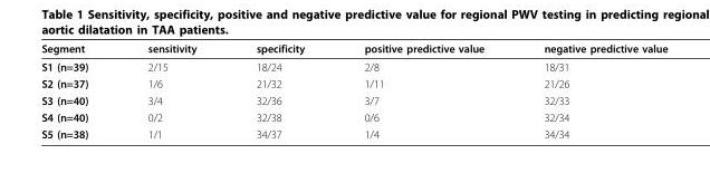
<table><thead><tr><td>Segment</td><td>sensitivity</td><td>specificity</td><td>positive predictive value</td><td>negative predictive value</td></tr></thead><tbody><tr><td>S1 (n=39)</td><td>2/15</td><td>18/24</td><td>2/8</td><td>18/31</td></tr><tr><td>S2 (n=37)</td><td>1/6</td><td>21/32</td><td>1/11</td><td>21/26</td></tr><tr><td>S3 (n=40)</td><td>3/4</td><td>32/36</td><td>3/7</td><td>32/33</td></tr><tr><td>S4 (n=40)</td><td>0/2</td><td>32/38</td><td>0/6</td><td>32/34</td></tr><tr><td>S5 (n=38)</td><td>1/1</td><td>34/37</td><td>1/4</td><td>34/34</td></tr></tbody></table>